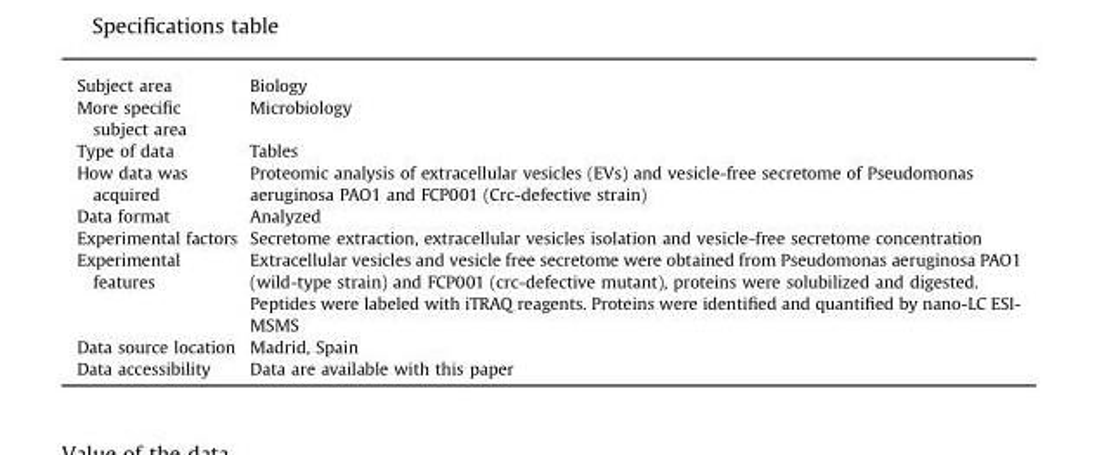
<table><tbody><tr><td>Subject area</td><td>Biology</td></tr><tr><td>More specific subject area</td><td>Microbiology</td></tr><tr><td>Type of data</td><td>Tables</td></tr><tr><td>How data was acquired</td><td>Proteomic analysis of extracellular vesicles (EVs) and vesicle-free secretome of Pseudomonas aeruginosa PAO1 and FCP001 (Crc-defective strain)</td></tr><tr><td>Data format</td><td>Analyzed</td></tr><tr><td>Experimental factors</td><td>Secretome extraction, extracellular vesicles isolation and vesicle-free secretome concentration</td></tr><tr><td>Experimental features</td><td>Extracellular vesicles and vesicle free secretome were obtained from Pseudomonas aeruginosa PAO1 (wild-type strain) and FCP001 (crc-defective mutant), proteins were solubilized and digested. Peptides were labeled with iTRAQ reagents. Proteins were identified and quantified by nano-LC ESI- MSMS</td></tr><tr><td>Data source location</td><td>Madrid, Spain</td></tr><tr><td>Data accessibility</td><td>Data are available with this paper</td></tr></tbody></table>